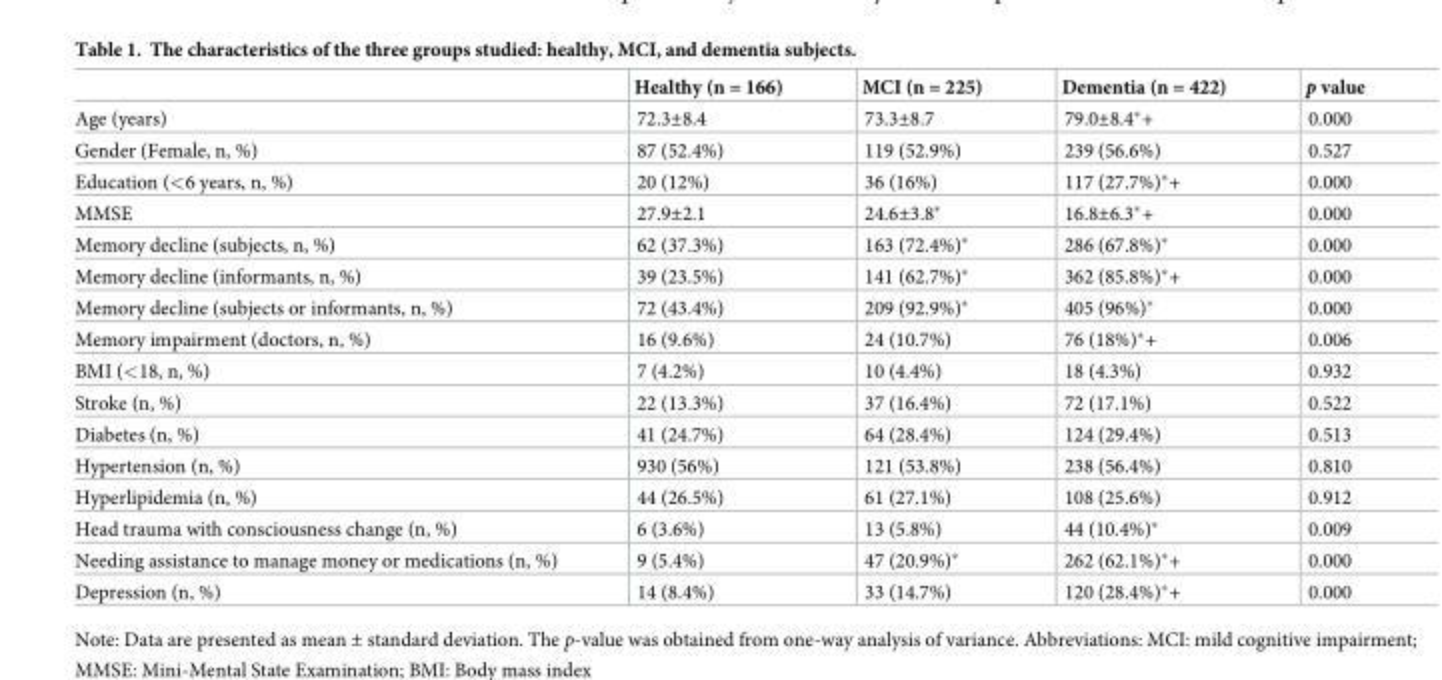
<table><thead><tr><td></td><td>Healthy (n = 166)</td><td>MCI (n = 225)</td><td>Dementia (n = 422)</td><td>p value</td></tr></thead><tbody><tr><td>Age (years)</td><td>72.3±8.4</td><td>73.3±8.7</td><td>79.0±8.4*+</td><td>0.000</td></tr><tr><td>Gender (Female, n, %)</td><td>87 (52.4%)</td><td>119 (52.9%)</td><td>239 (56.6%)</td><td>0.527</td></tr><tr><td>Education (&lt;6 years, n, %)</td><td>20 (12%)</td><td>36 (16%)</td><td>117 (27.7%)*+</td><td>0.000</td></tr><tr><td>MMSE</td><td>27.9±2.1</td><td>24.6±3.8*</td><td>16.8±6.3*+</td><td>0.000</td></tr><tr><td>Memory decline (subjects, n, %)</td><td>62 (37.3%)</td><td>163 (72.4%)*</td><td>286 (67.8%)*</td><td>0.000</td></tr><tr><td>Memory decline (informants, n, %)</td><td>39 (23.5%)</td><td>141 (62.7%)*</td><td>362 (85.8%)*+</td><td>0.000</td></tr><tr><td>Memory decline (subjects or informants, n, %)</td><td>72 (43.4%)</td><td>209 (92.9%)*</td><td>405 (96%)*</td><td>0.000</td></tr><tr><td>Memory impairment (doctors, n, %)</td><td>16 (9.6%)</td><td>24 (10.7%)</td><td>76 (18%)*+</td><td>0.006</td></tr><tr><td>BMI (&lt;18, n, %)</td><td>7 (4.2%)</td><td>10 (4.4%)</td><td>18 (4.3%)</td><td>0.932</td></tr><tr><td>Stroke (n, %)</td><td>22 (13.3%)</td><td>37 (16.4%)</td><td>72 (17.1%)</td><td>0.522</td></tr><tr><td>Diabetes (n, %)</td><td>41 (24.7%)</td><td>64 (28.4%)</td><td>124 (29.4%)</td><td>0.513</td></tr><tr><td>Hypertension (n, %)</td><td>930 (56%)</td><td>121 (53.8%)</td><td>238 (56.4%)</td><td>0.810</td></tr><tr><td>Hyperlipidemia (n, %)</td><td>44 (26.5%)</td><td>61 (27.1%)</td><td>108 (25.6%)</td><td>0.912</td></tr><tr><td>Head trauma with consciousness change (n, %)</td><td>6 (3.6%)</td><td>13 (5.8%)</td><td>44 (10.4%)*</td><td>0.009</td></tr><tr><td>Needing assistance to manage money or medications (n, %)</td><td>9 (5.4%)</td><td>47 (20.9%)*</td><td>262 (62.1%)*+</td><td>0.000</td></tr><tr><td>Depression (n, %)</td><td>14 (8.4%)</td><td>33 (14.7%)</td><td>120 (28.4%)*+</td><td>0.000</td></tr></tbody></table>